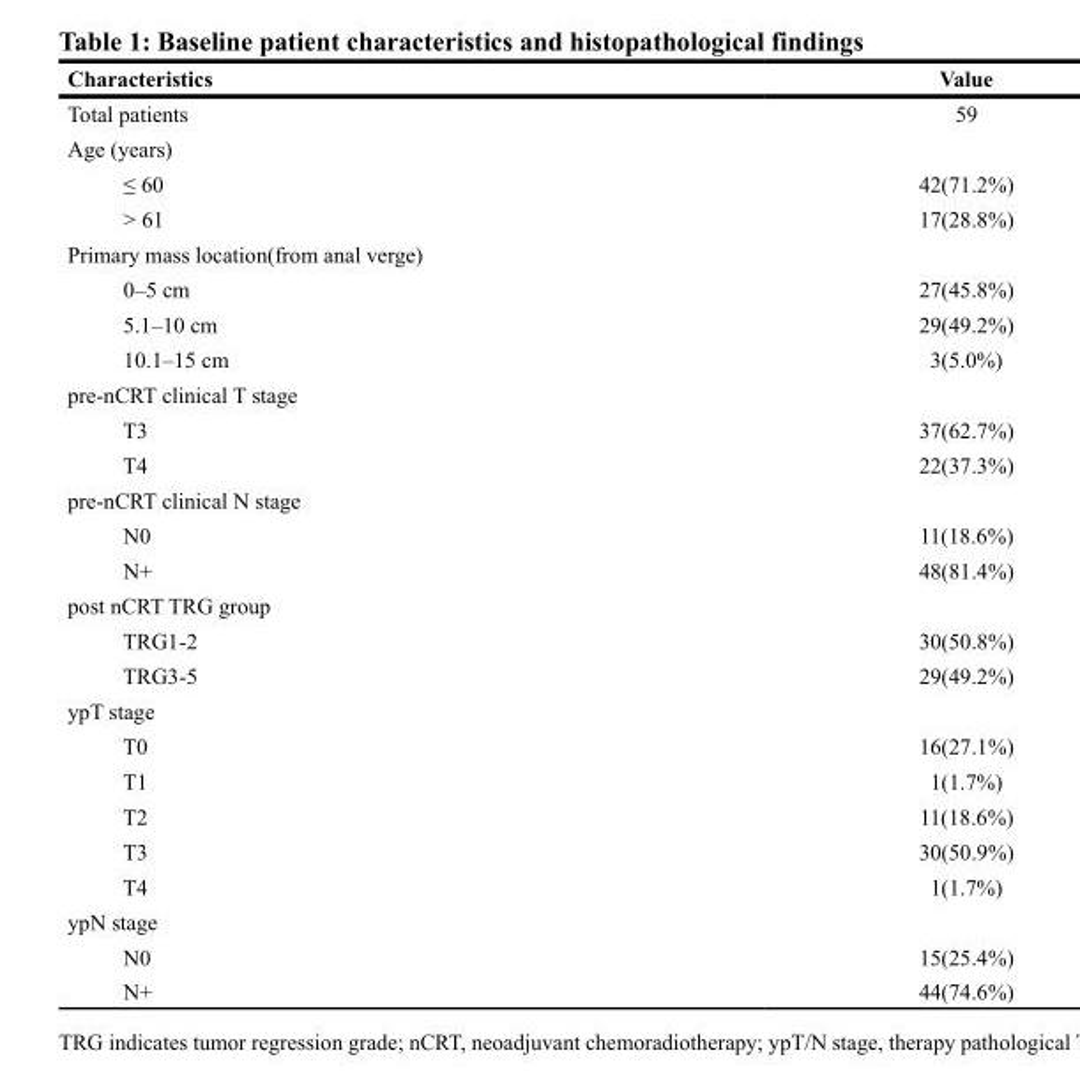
<table><thead><tr><td>Characteristics</td><td>Value</td></tr></thead><tbody><tr><td>Total patients</td><td>59</td></tr><tr><td colspan="2">Age (years)</td></tr><tr><td>≤ 60</td><td>42(71.2%)</td></tr><tr><td>&gt; 61</td><td>17(28.8%)</td></tr><tr><td colspan="2">Primary mass location(from anal verge)</td></tr><tr><td>0–5 cm</td><td>27(45.8%)</td></tr><tr><td>5.1–10 cm</td><td>29(49.2%)</td></tr><tr><td>10.1–15 cm</td><td>3(5.0%)</td></tr><tr><td colspan="2">pre-nCRT clinical T stage</td></tr><tr><td>T3</td><td>37(62.7%)</td></tr><tr><td>T4</td><td>22(37.3%)</td></tr><tr><td colspan="2">pre-nCRT clinical N stage</td></tr><tr><td>N0</td><td>11(18.6%)</td></tr><tr><td>N+</td><td>48(81.4%)</td></tr><tr><td colspan="2">post nCRT TRG group</td></tr><tr><td>TRG1-2</td><td>30(50.8%)</td></tr><tr><td>TRG3-5</td><td>29(49.2%)</td></tr><tr><td colspan="2">ypT stage</td></tr><tr><td>T0</td><td>16(27.1%)</td></tr><tr><td>T1</td><td>1(1.7%)</td></tr><tr><td>T2</td><td>11(18.6%)</td></tr><tr><td>T3</td><td>30(50.9%)</td></tr><tr><td>T4</td><td>1(1.7%)</td></tr><tr><td colspan="2">ypN stage</td></tr><tr><td>N0</td><td>15(25.4%)</td></tr><tr><td>N+</td><td>44(74.6%)</td></tr></tbody></table>